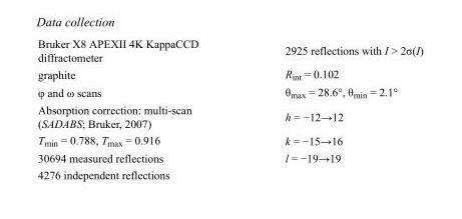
<table><tbody><tr><td>Bruker X8 APEXII 4K KappaCCD diffractometer</td><td>2925 reflections with I &gt; 2σ(I)</td></tr><tr><td>graphite</td><td>R<sub>int</sub> = 0.102</td></tr><tr><td>φ and ω scans</td><td>θ<sub>max</sub> = 28.6°, θ<sub>min</sub> = 2.1°</td></tr><tr><td>Absorption correction: multi-scan (SADABS; Bruker, 2007)</td><td>h = −12→12</td></tr><tr><td>T<sub>min</sub> = 0.788, T<sub>max</sub> = 0.916</td><td>k = −15→16</td></tr><tr><td>30694 measured reflections</td><td>l = −19→19</td></tr><tr><td>4276 independent reflections</td><td></td></tr></tbody></table>